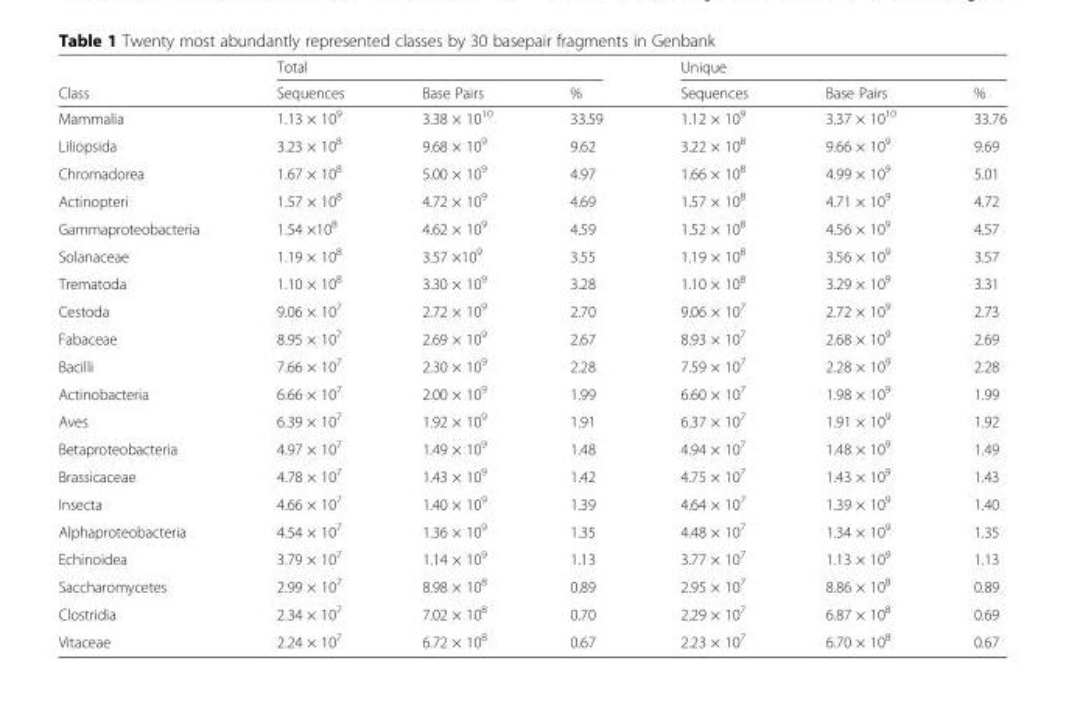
<table><thead><tr><td rowspan="2">Class</td><td colspan="3">Total</td><td colspan="3">Unique</td></tr><tr><td>Sequences</td><td>Base Pairs</td><td>%</td><td>Sequences</td><td>Base Pairs</td><td>%</td></tr></thead><tbody><tr><td>Mammalia</td><td>1.13 × 10<sup>9</sup></td><td>3.38 × 10<sup>10</sup></td><td>33.59</td><td>1.12 × 10<sup>9</sup></td><td>3.37 × 10<sup>10</sup></td><td>33.76</td></tr><tr><td>Liliopsida</td><td>3.23 × 10<sup>8</sup></td><td>9.68 × 10<sup>9</sup></td><td>9.62</td><td>3.22 × 10<sup>8</sup></td><td>9.66 × 10<sup>9</sup></td><td>9.69</td></tr><tr><td>Chromadorea</td><td>1.67 × 10<sup>8</sup></td><td>5.00 × 10<sup>9</sup></td><td>4.97</td><td>1.66 × 10<sup>8</sup></td><td>4.99 × 10<sup>9</sup></td><td>5.01</td></tr><tr><td>Actinopteri</td><td>1.57 × 10<sup>8</sup></td><td>4.72 × 10<sup>9</sup></td><td>4.69</td><td>1.57 × 10<sup>8</sup></td><td>4.71 × 10<sup>9</sup></td><td>4.72</td></tr><tr><td>Gammaproteobacteria</td><td>1.54 ×10<sup>8</sup></td><td>4.62 × 10<sup>9</sup></td><td>4.59</td><td>1.52 × 10<sup>8</sup></td><td>4.56 × 10<sup>9</sup></td><td>4.57</td></tr><tr><td>Solanaceae</td><td>1.19 × 10<sup>8</sup></td><td>3.57 ×10<sup>9</sup></td><td>3.55</td><td>1.19 × 10<sup>8</sup></td><td>3.56 × 10<sup>9</sup></td><td>3.57</td></tr><tr><td>Trematoda</td><td>1.10 × 10<sup>8</sup></td><td>3.30 × 10<sup>9</sup></td><td>3.28</td><td>1.10 × 10<sup>8</sup></td><td>3.29 × 10<sup>9</sup></td><td>3.31</td></tr><tr><td>Cestoda</td><td>9.06 × 10<sup>7</sup></td><td>2.72 × 10<sup>9</sup></td><td>2.70</td><td>9.06 × 10<sup>7</sup></td><td>2.72 × 10<sup>9</sup></td><td>2.73</td></tr><tr><td>Fabaceae</td><td>8.95 × 10<sup>7</sup></td><td>2.69 × 10<sup>9</sup></td><td>2.67</td><td>8.93 × 10<sup>7</sup></td><td>2.68 × 10<sup>9</sup></td><td>2.69</td></tr><tr><td>Bacilli</td><td>7.66 × 10<sup>7</sup></td><td>2.30 × 10<sup>9</sup></td><td>2.28</td><td>7.59 × 10<sup>7</sup></td><td>2.28 × 10<sup>9</sup></td><td>2.28</td></tr><tr><td>Actinobacteria</td><td>6.66 × 10<sup>7</sup></td><td>2.00 × 10<sup>9</sup></td><td>1.99</td><td>6.60 × 10<sup>7</sup></td><td>1.98 × 10<sup>9</sup></td><td>1.99</td></tr><tr><td>Aves</td><td>6.39 × 10<sup>7</sup></td><td>1.92 × 10<sup>9</sup></td><td>1.91</td><td>6.37 × 10<sup>7</sup></td><td>1.91 × 10<sup>9</sup></td><td>1.92</td></tr><tr><td>Betaproteobacteria</td><td>4.97 × 10<sup>7</sup></td><td>1.49 × 10<sup>9</sup></td><td>1.48</td><td>4.94 × 10<sup>7</sup></td><td>1.48 × 10<sup>9</sup></td><td>1.49</td></tr><tr><td>Brassicaceae</td><td>4.78 × 10<sup>7</sup></td><td>1.43 × 10<sup>9</sup></td><td>1.42</td><td>4.75 × 10<sup>7</sup></td><td>1.43 × 10<sup>9</sup></td><td>1.43</td></tr><tr><td>Insecta</td><td>4.66 × 10<sup>7</sup></td><td>1.40 × 10<sup>9</sup></td><td>1.39</td><td>4.64 × 10<sup>7</sup></td><td>1.39 × 10<sup>9</sup></td><td>1.40</td></tr><tr><td>Alphaproteobacteria</td><td>4.54 × 10<sup>7</sup></td><td>1.36 × 10<sup>9</sup></td><td>1.35</td><td>4.48 × 10<sup>7</sup></td><td>1.34 × 10<sup>9</sup></td><td>1.35</td></tr><tr><td>Echinoidea</td><td>3.79 × 10<sup>7</sup></td><td>1.14 × 10<sup>9</sup></td><td>1.13</td><td>3.77 × 10<sup>7</sup></td><td>1.13 × 10<sup>9</sup></td><td>1.13</td></tr><tr><td>Saccharomycetes</td><td>2.99 × 10<sup>7</sup></td><td>8.98 × 10<sup>8</sup></td><td>0.89</td><td>2.95 × 10<sup>7</sup></td><td>8.86 × 10<sup>8</sup></td><td>0.89</td></tr><tr><td>Clostridia</td><td>2.34 × 10<sup>7</sup></td><td>7.02 × 10<sup>8</sup></td><td>0.70</td><td>2.29 × 10<sup>7</sup></td><td>6.87 × 10<sup>8</sup></td><td>0.69</td></tr><tr><td>Vitaceae</td><td>2.24 × 10<sup>7</sup></td><td>6.72 × 10<sup>8</sup></td><td>0.67</td><td>2.23 × 10<sup>7</sup></td><td>6.70 × 10<sup>8</sup></td><td>0.67</td></tr></tbody></table>